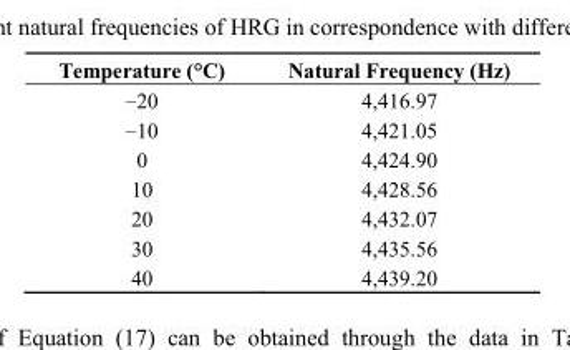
<table><thead><tr><td>Temperature (°C)</td><td>Natural Frequency (Hz)</td></tr></thead><tbody><tr><td>−20</td><td>4,416.97</td></tr><tr><td>−10</td><td>4,421.05</td></tr><tr><td>0</td><td>4,424.90</td></tr><tr><td>10</td><td>4,428.56</td></tr><tr><td>20</td><td>4,432.07</td></tr><tr><td>30</td><td>4,435.56</td></tr><tr><td>40</td><td>4,439.20</td></tr></tbody></table>